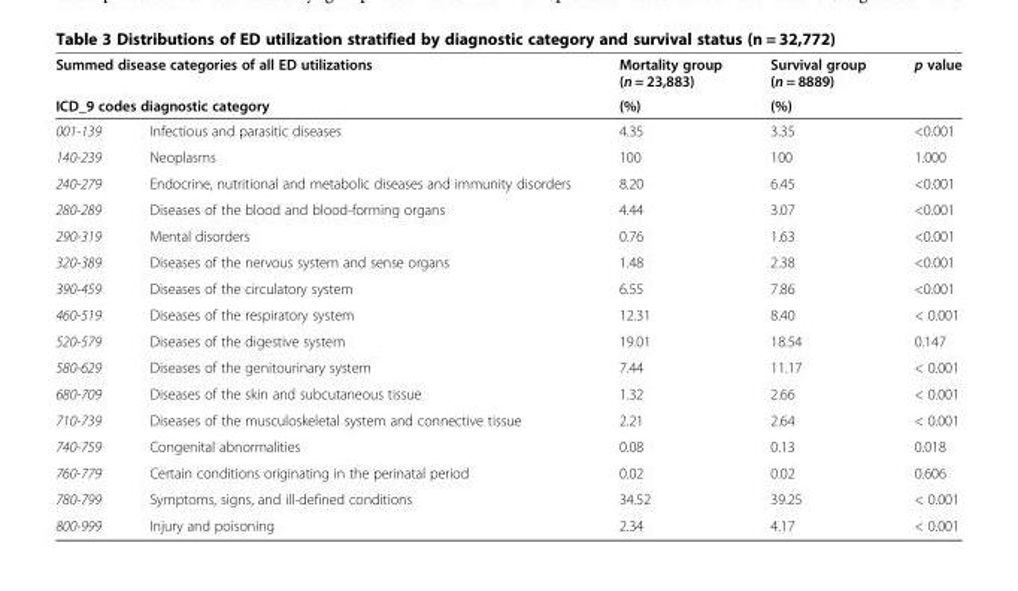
<table><thead><tr><td rowspan="2" colspan="2">Summed disease categories of all ED utilizations ICD_9 codes diagnostic category</td><td rowspan="3">Mortality group (n = 23,883) (%) 4.35</td><td rowspan="3">Survival group (n = 8889) (%) 3.35</td><td rowspan="3">p value &lt;0.001</td></tr><tr></tr><tr><td>001-139</td><td>Infectious and parasitic diseases</td></tr></thead><tbody><tr><td>140-239</td><td>Neoplasms</td><td>100</td><td>100</td><td>1.000</td></tr><tr><td>240-279</td><td>Endocrine, nutritional and metabolic diseases and immunity disorders</td><td>8.20</td><td>6.45</td><td>&lt;0.001</td></tr><tr><td>280-289</td><td>Diseases of the blood and blood-forming organs</td><td>4.44</td><td>3.07</td><td>&lt;0.001</td></tr><tr><td>290-319</td><td>Mental disorders</td><td>0.76</td><td>1.63</td><td>&lt;0.001</td></tr><tr><td>320-389</td><td>Diseases of the nervous system and sense organs</td><td>1.48</td><td>2.38</td><td>&lt;0.001</td></tr><tr><td>390-459</td><td>Diseases of the circulatory system</td><td>6.55</td><td>7.86</td><td>&lt;0.001</td></tr><tr><td>460-519</td><td>Diseases of the respiratory system</td><td>12.31</td><td>8.40</td><td>&lt; 0.001</td></tr><tr><td>520-579</td><td>Diseases of the digestive system</td><td>19.01</td><td>18.54</td><td>0.147</td></tr><tr><td>580-629</td><td>Diseases of the genitourinary system</td><td>7.44</td><td>11.17</td><td>&lt; 0.001</td></tr><tr><td>680-709</td><td>Diseases of the skin and subcutaneous tissue</td><td>1.32</td><td>2.66</td><td>&lt; 0.001</td></tr><tr><td>710-739</td><td>Diseases of the musculoskeletal system and connective tissue</td><td>2.21</td><td>2.64</td><td>&lt; 0.001</td></tr><tr><td>740-759</td><td>Congenital abnormalities</td><td>0.08</td><td>0.13</td><td>0.018</td></tr><tr><td>760-779</td><td>Certain conditions originating in the perinatal period</td><td>0.02</td><td>0.02</td><td>0.606</td></tr><tr><td>780-799</td><td>Symptoms, signs, and ill-defined conditions</td><td>34.52</td><td>39.25</td><td>&lt; 0.001</td></tr><tr><td>800-999</td><td>Injury and poisoning</td><td>2.34</td><td>4.17</td><td>&lt; 0.001</td></tr></tbody></table>